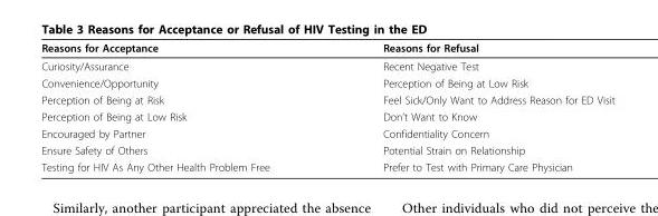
<table><thead><tr><td>Reasons for Acceptance</td><td>Reasons for Refusal</td></tr></thead><tbody><tr><td>Curiosity/Assurance</td><td>Recent Negative Test</td></tr><tr><td>Convenience/Opportunity</td><td>Perception of Being at Low Risk</td></tr><tr><td>Perception of Being at Risk</td><td>Feel Sick/Only Want to Address Reason for ED Visit</td></tr><tr><td>Perception of Being at Low Risk</td><td>Don’t Want to Know</td></tr><tr><td>Encouraged by Partner</td><td>Confidentiality Concern</td></tr><tr><td>Ensure Safety of Others</td><td>Potential Strain on Relationship</td></tr><tr><td>Testing for HIV As Any Other Health Problem Free</td><td>Prefer to Test with Primary Care Physician</td></tr></tbody></table>